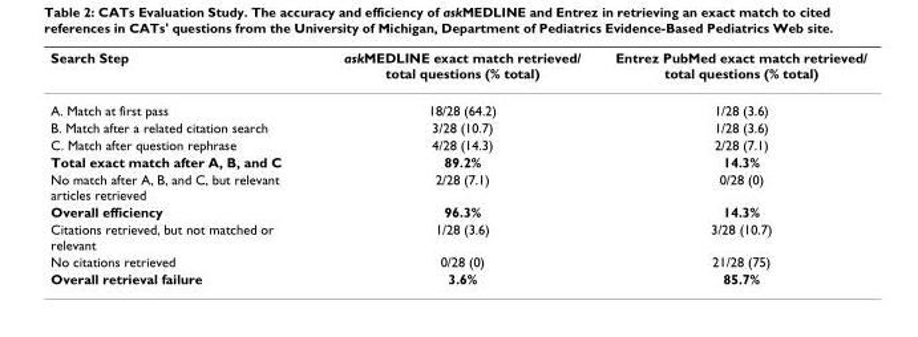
<table><thead><tr><td>Search Step</td><td>askMEDLINE exact match retrieved/ total questions (% total)</td><td>Entrez PubMed exact match retrieved/ total questions (% total)</td></tr></thead><tbody><tr><td>A. Match at first pass</td><td>18/28 (64.2)</td><td>1/28 (3.6)</td></tr><tr><td>B. Match after a related citation search</td><td>3/28 (10.7)</td><td>1/28 (3.6)</td></tr><tr><td>C. Match after question rephrase</td><td>4/28 (14.3)</td><td>2/28 (7.1)</td></tr><tr><td>Total exact match after A, B, and C</td><td>89.2%</td><td>14.3%</td></tr><tr><td>No match after A, B, and C, but relevant articles retrieved</td><td>2/28 (7.1)</td><td>0/28 (0)</td></tr><tr><td>Overall efficiency</td><td>96.3%</td><td>14.3%</td></tr><tr><td>Citations retrieved, but not matched or relevant</td><td>1/28 (3.6)</td><td>3/28 (10.7)</td></tr><tr><td>No citations retrieved</td><td>0/28 (0)</td><td>21/28 (75)</td></tr><tr><td>Overall retrieval failure</td><td>3.6%</td><td>85.7%</td></tr></tbody></table>